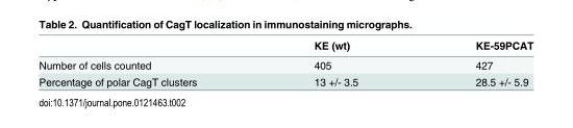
<table><thead><tr><td></td><td>KE (wt)</td><td>KE-59PCAT</td></tr></thead><tbody><tr><td>Number of cells counted</td><td>405</td><td>427</td></tr><tr><td>Percentage of polar CagT clusters</td><td>13 +/- 3.5</td><td>28.5 +/- 5.9</td></tr></tbody></table>